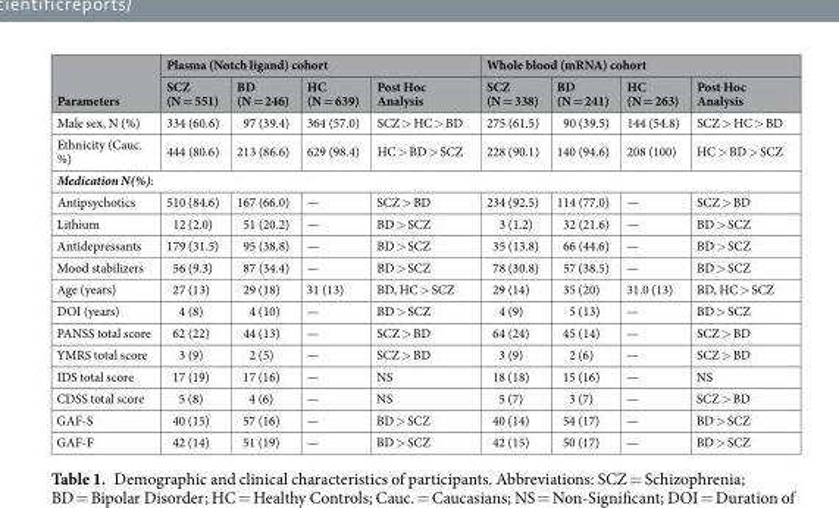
<table><thead><tr><td rowspan="2">Parameters</td><td colspan="4">Plasma (Notch ligand) cohort</td><td colspan="4">Whole blood (mRNA) cohort</td></tr><tr><td>SCZ (N = 551)</td><td>BD (N = 246)</td><td>HC (N = 639)</td><td>Post Hoc Analysis</td><td>SCZ (N = 338)</td><td>BD (N = 241)</td><td>HC (N = 263)</td><td>Post Hoc Analysis</td></tr></thead><tbody><tr><td>Male sex, N (%)</td><td>334 (60.6)</td><td>97 (39.4)</td><td>364 (57.0)</td><td>SCZ &gt; HC &gt; BD</td><td>275 (61.5)</td><td>90 (39.5)</td><td>144 (54.8)</td><td>SCZ &gt; HC &gt; BD</td></tr><tr><td>Ethnicity (Cauc. %)</td><td>444 (80.6)</td><td>213 (86.6)</td><td>629 (98.4)</td><td>HC &gt; BD &gt; SCZ</td><td>228 (90.1)</td><td>140 (94.6)</td><td>208 (100)</td><td>HC &gt; BD &gt; SCZ</td></tr><tr><td colspan="9">Medication N(%):</td></tr><tr><td>Antipsychotics</td><td>510 (84.6)</td><td>167 (66.0)</td><td>—</td><td>SCZ &gt; BD</td><td>234 (92.5)</td><td>114 (77.0)</td><td>—</td><td>SCZ &gt; BD</td></tr><tr><td>Lithium</td><td>12 (2.0)</td><td>51 (20.2)</td><td>—</td><td>BD &gt; SCZ</td><td>3 (1.2)</td><td>32 (21.6)</td><td>—</td><td>BD &gt; SCZ</td></tr><tr><td>Antidepressants</td><td>179 (31.5)</td><td>95 (38.8)</td><td>—</td><td>BD &gt; SCZ</td><td>35 (13.8)</td><td>66 (44.6)</td><td>—</td><td>BD &gt; SCZ</td></tr><tr><td>Mood stabilizers</td><td>56 (9.3)</td><td>87 (34.4)</td><td>—</td><td>BD &gt; SCZ</td><td>78 (30.8)</td><td>57 (38.5)</td><td>—</td><td>BD &gt; SCZ</td></tr><tr><td>Age (years)</td><td>27 (13)</td><td>29 (18)</td><td>31 (13)</td><td>BD, HC &gt; SCZ</td><td>29 (14)</td><td>35 (20)</td><td>31.0 (13)</td><td>BD, HC &gt; SCZ</td></tr><tr><td>DOI (years)</td><td>4 (8)</td><td>4 (10)</td><td>—</td><td>BD &gt; SCZ</td><td>4 (9)</td><td>5 (13)</td><td>—</td><td>BD &gt; SCZ</td></tr><tr><td>PANSS total score</td><td>62 (22)</td><td>44 (13)</td><td>—</td><td>SCZ &gt; BD</td><td>64 (24)</td><td>45 (14)</td><td>—</td><td>SCZ &gt; BD</td></tr><tr><td>YMRS total score</td><td>3 (9)</td><td>2 (5)</td><td>—</td><td>SCZ &gt; BD</td><td>3 (9)</td><td>2 (6)</td><td>—</td><td>SCZ &gt; BD</td></tr><tr><td>IDS total score</td><td>17 (19)</td><td>17 (16)</td><td>—</td><td>NS</td><td>18 (18)</td><td>15 (16)</td><td>—</td><td>NS</td></tr><tr><td>CDSS total score</td><td>5 (8)</td><td>4 (6)</td><td>—</td><td>NS</td><td>5 (7)</td><td>3 (7)</td><td>—</td><td>SCZ &gt; BD</td></tr><tr><td>GAF-S</td><td>40 (15)</td><td>57 (16)</td><td>—</td><td>BD &gt; SCZ</td><td>40 (14)</td><td>54 (17)</td><td>—</td><td>BD &gt; SCZ</td></tr><tr><td>GAF-F</td><td>42 (14)</td><td>51 (19)</td><td>—</td><td>BD &gt; SCZ</td><td>42 (15)</td><td>50 (17)</td><td>—</td><td>BD &gt; SCZ</td></tr></tbody></table>